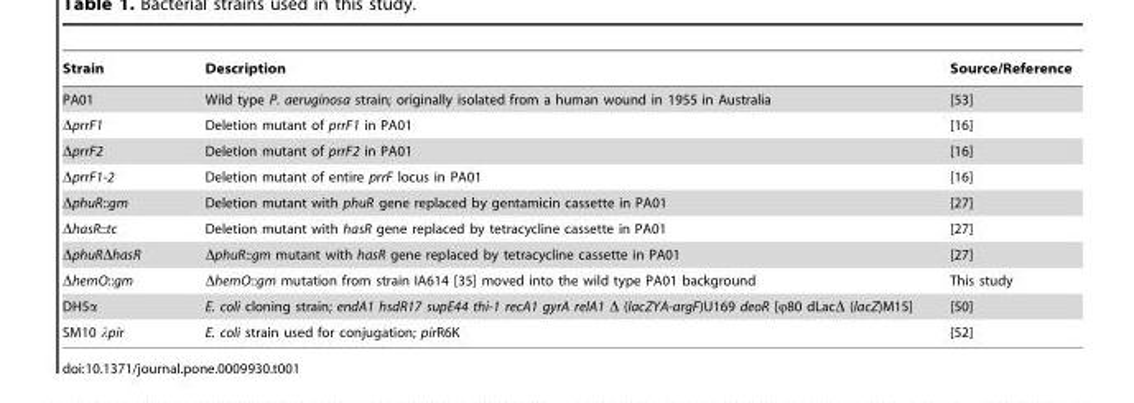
<table><thead><tr><td>Strain</td><td>Description</td><td>Source/Reference</td></tr></thead><tbody><tr><td>PA01</td><td>Wild type P. aeruginosa strain; originally isolated from a human wound in 1955 in Australia</td><td>[53]</td></tr><tr><td>ΔprrF1</td><td>Deletion mutant of prrF1 in PA01</td><td>[16]</td></tr><tr><td>ΔprrF2</td><td>Deletion mutant of prrF2 in PA01</td><td>[16]</td></tr><tr><td>ΔprrF1-2</td><td>Deletion mutant of entire prrF locus in PA01</td><td>[16]</td></tr><tr><td>ΔphuR::gm</td><td>Deletion mutant with phuR gene replaced by gentamicin cassette in PA01</td><td>[27]</td></tr><tr><td>ΔhasR::tc</td><td>Deletion mutant with hasR gene replaced by tetracycline cassette in PA01</td><td>[27]</td></tr><tr><td>ΔphuRΔhasR</td><td>ΔphuR::gm mutant with hasR gene replaced by tetracycline cassette in PA01</td><td>[27]</td></tr><tr><td>ΔhemO::gm</td><td>ΔhemO::gm mutation from strain IA614 [35] moved into the wild type PA01 background</td><td>This study</td></tr><tr><td>DH5α</td><td>E. coli cloning strain; endA1 hsdR17 supE44 thi-1 recA1 gyrA relA1 Δ (lacZYA-argF)U169 deoR [ϕ80 dLacΔ (lacZ)M15]</td><td>[50]</td></tr><tr><td>SM10 λpir</td><td>E. coli strain used for conjugation; pirR6K</td><td>[52]</td></tr></tbody></table>